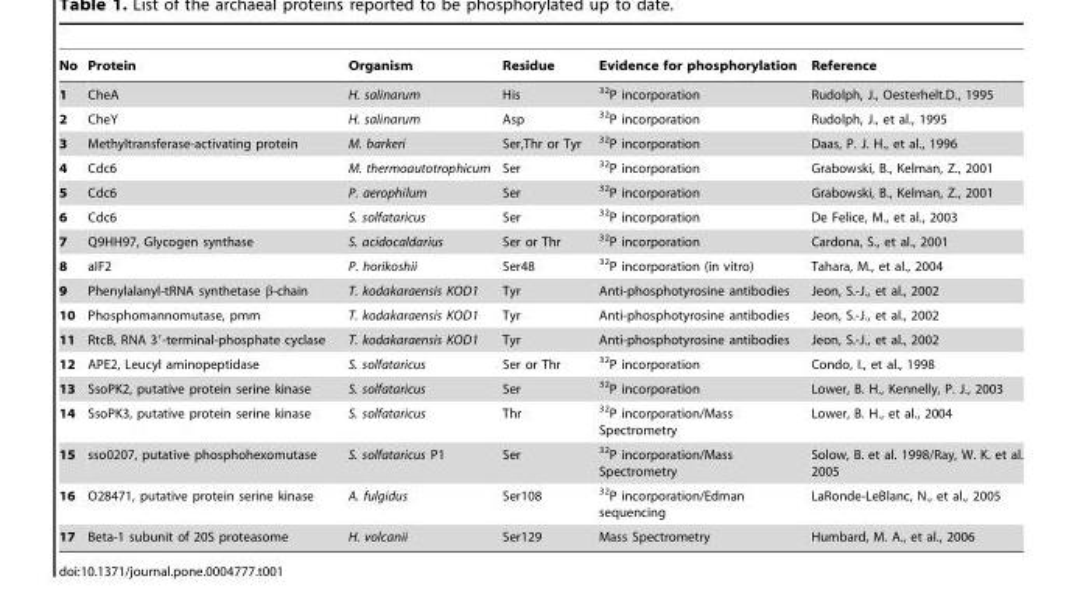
<table><thead><tr><td>No</td><td>Protein</td><td>Organism</td><td>Residue</td><td>Evidence for phosphorylation</td><td>Reference</td></tr></thead><tbody><tr><td>1</td><td>CheA</td><td>H. salinarum</td><td>His</td><td><sup>32</sup>P incorporation</td><td>Rudolph, J., Oesterhelt.D., 1995</td></tr><tr><td>2</td><td>CheY</td><td>H. salinarum</td><td>Asp</td><td><sup>32</sup>P incorporation</td><td>Rudolph, J., et al., 1995</td></tr><tr><td>3</td><td>Methyltransferase-activating protein</td><td>M. barkeri</td><td>Ser,Thr or Tyr</td><td><sup>32</sup>P incorporation</td><td>Daas, P. J. H., et al., 1996</td></tr><tr><td>4</td><td>Cdc6</td><td>M. thermoautotrophicum</td><td>Ser</td><td><sup>32</sup>P incorporation</td><td>Grabowski, B., Kelman, Z., 2001</td></tr><tr><td>5</td><td>Cdc6</td><td>P. aerophilum</td><td>Ser</td><td><sup>32</sup>P incorporation</td><td>Grabowski, B., Kelman, Z., 2001</td></tr><tr><td>6</td><td>Cdc6</td><td>S. solfataricus</td><td>Ser</td><td><sup>32</sup>P incorporation</td><td>De Felice, M., et al., 2003</td></tr><tr><td>7</td><td>Q9HH97, Glycogen synthase</td><td>S. acidocaldarius</td><td>Ser or Thr</td><td><sup>32</sup>P incorporation</td><td>Cardona, S., et al., 2001</td></tr><tr><td>8</td><td>aIF2</td><td>P. horikoshii</td><td>Ser48</td><td><sup>32</sup>P incorporation (in vitro)</td><td>Tahara, M., et al., 2004</td></tr><tr><td>9</td><td>Phenylalanyl-tRNA synthetase β-chain</td><td>T. kodakaraensis KOD1</td><td>Tyr</td><td>Anti-phosphotyrosine antibodies</td><td>Jeon, S.-J., et al., 2002</td></tr><tr><td>10</td><td>Phosphomannomutase, pmm</td><td>T. kodakaraensis KOD1</td><td>Tyr</td><td>Anti-phosphotyrosine antibodies</td><td>Jeon, S.-J., et al., 2002</td></tr><tr><td>11</td><td>RtcB, RNA 3′-terminal-phosphate cyclase</td><td>T. kodakaraensis KOD1</td><td>Tyr</td><td>Anti-phosphotyrosine antibodies</td><td>Jeon, S.-J., et al., 2002</td></tr><tr><td>12</td><td>APE2, Leucyl aminopeptidase</td><td>S. solfataricus</td><td>Ser or Thr</td><td><sup>32</sup>P incorporation</td><td>Condo, I., et al., 1998</td></tr><tr><td>13</td><td>SsoPK2, putative protein serine kinase</td><td>S. solfataricus</td><td>Ser</td><td><sup>32</sup>P incorporation</td><td>Lower, B. H., Kennelly, P. J., 2003</td></tr><tr><td>14</td><td>SsoPK3, putative protein serine kinase</td><td>S. solfataricus</td><td>Thr</td><td><sup>32</sup>P incorporation/Mass Spectrometry</td><td>Lower, B. H., et al., 2004</td></tr><tr><td>15</td><td>sso0207, putative phosphohexomutase</td><td>S. solfataricus P1</td><td>Ser</td><td><sup>32</sup>P incorporation/Mass Spectrometry</td><td>Solow, B. et al. 1998/Ray, W. K. et al. 2005</td></tr><tr><td>16</td><td>O28471, putative protein serine kinase</td><td>A. fulgidus</td><td>Ser108</td><td><sup>32</sup>P incorporation/Edman sequencing</td><td>LaRonde-LeBlanc, N., et al., 2005</td></tr><tr><td>17</td><td>Beta-1 subunit of 20S proteasome</td><td>H. volcanii</td><td>Ser129</td><td>Mass Spectrometry</td><td>Humbard, M. A., et al., 2006</td></tr></tbody></table>